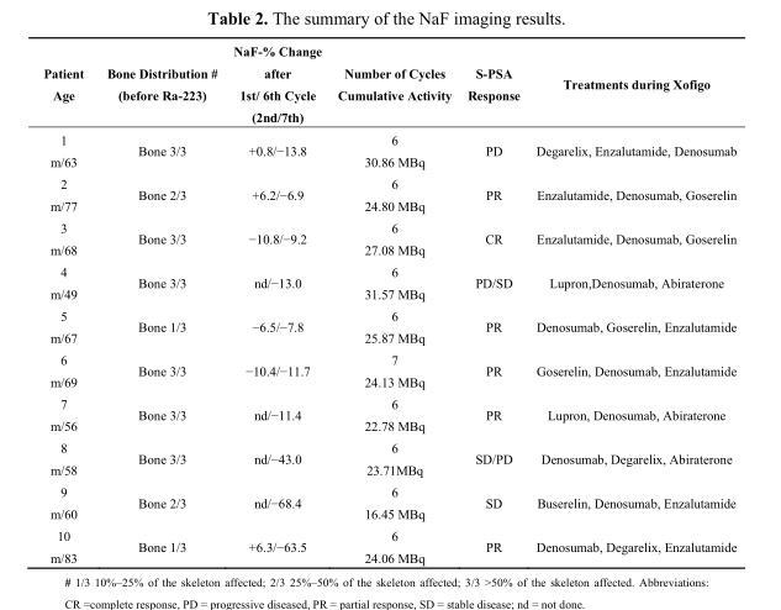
<table><thead><tr><td>Patient Age</td><td>Bone Distribution # (before Ra-223)</td><td>NaF-% Change after 1st/ 6th Cycle (2nd/7th)</td><td>Number of Cycles Cumulative Activity</td><td>S-PSA Response</td><td>Treatments during Xofigo</td></tr></thead><tbody><tr><td>1 m/63</td><td>Bone 3/3</td><td>+0.8/−13.8</td><td>6 30.86 MBq</td><td>PD</td><td>Degarelix, Enzalutamide, Denosumab</td></tr><tr><td>2 m/77</td><td>Bone 2/3</td><td>+6.2/−6.9</td><td>6 24.80 MBq</td><td>PR</td><td>Enzalutamide, Denosumab, Goserelin</td></tr><tr><td>3 m/68</td><td>Bone 3/3</td><td>−10.8/−9.2</td><td>6 27.08 MBq</td><td>CR</td><td>Enzalutamide, Denosumab, Goserelin</td></tr><tr><td>4 m/49</td><td>Bone 3/3</td><td>nd/−13.0</td><td>6 31.57 MBq</td><td>PD/SD</td><td>Lupron,Denosumab, Abiraterone</td></tr><tr><td>5 m/67</td><td>Bone 1/3</td><td>−6.5/−7.8</td><td>6 25.87 MBq</td><td>PR</td><td>Denosumab, Goserelin, Enzalutamide</td></tr><tr><td>6 m/69</td><td>Bone 3/3</td><td>−10.4/−11.7</td><td>7 24.13 MBq</td><td>PR</td><td>Goserelin, Denosumab, Enzalutamide</td></tr><tr><td>7 m/56</td><td>Bone 3/3</td><td>nd/−11.4</td><td>6 22.78 MBq</td><td>PR</td><td>Lupron, Denosumab, Abiraterone</td></tr><tr><td>8 m/58</td><td>Bone 3/3</td><td>nd/−43.0</td><td>6 23.71MBq</td><td>SD/PD</td><td>Denosumab, Degarelix, Abiraterone</td></tr><tr><td>9 m/60</td><td>Bone 2/3</td><td>nd/−68.4</td><td>6 16.45 MBq</td><td>SD</td><td>Buserelin, Denosumab, Enzalutamide</td></tr><tr><td>10 m/83</td><td>Bone 1/3</td><td>+6.3/−63.5</td><td>6 24.06 MBq</td><td>PR</td><td>Denosumab, Degarelix, Enzalutamide</td></tr></tbody></table>